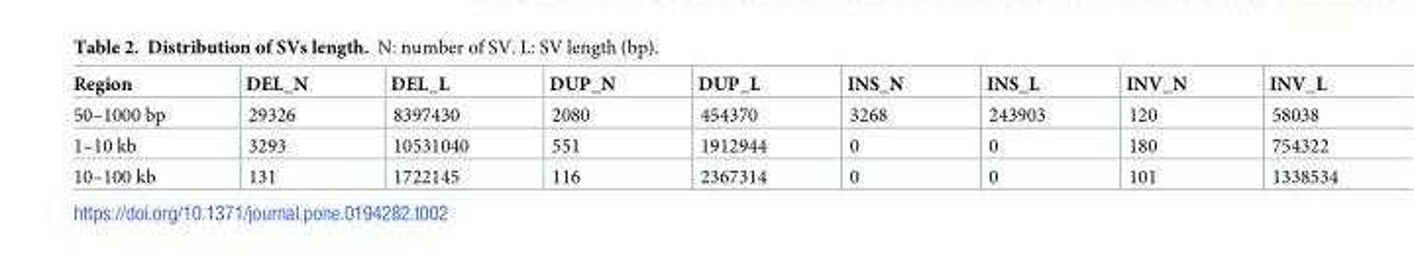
<table><thead><tr><td>Region</td><td>DEL_N</td><td>DEL_L</td><td>DUP_N</td><td>DUP_L</td><td>INS_N</td><td>INS_L</td><td>INV_N</td><td>INV_L</td></tr></thead><tbody><tr><td>50–1000 bp</td><td>29326</td><td>8397430</td><td>2080</td><td>454370</td><td>3268</td><td>243903</td><td>120</td><td>58038</td></tr><tr><td>1–10 kb</td><td>3293</td><td>10531040</td><td>551</td><td>1912944</td><td>0</td><td>0</td><td>180</td><td>754322</td></tr><tr><td>10–100 kb</td><td>131</td><td>1722145</td><td>116</td><td>2367314</td><td>0</td><td>0</td><td>101</td><td>1338534</td></tr></tbody></table>